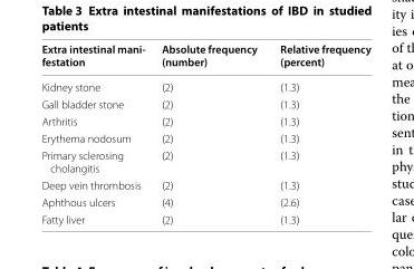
<table><thead><tr><td>Extra intestinal mani- festation</td><td>Absolute frequency (number)</td><td>Relative frequency (percent)</td></tr></thead><tbody><tr><td>Kidney stone</td><td>(2)</td><td>(1.3)</td></tr><tr><td>Gall bladder stone</td><td>(2)</td><td>(1.3)</td></tr><tr><td>Arthritis</td><td>(2)</td><td>(1.3)</td></tr><tr><td>Erythema nodosum</td><td>(2)</td><td>(1.3)</td></tr><tr><td>Primary sclerosing cholangitis</td><td>(2)</td><td>(1.3)</td></tr><tr><td>Deep vein thrombosis</td><td>(2)</td><td>(1.3)</td></tr><tr><td>Aphthous ulcers</td><td>(4)</td><td>(2.6)</td></tr><tr><td>Fatty liver</td><td>(2)</td><td>(1.3)</td></tr></tbody></table>